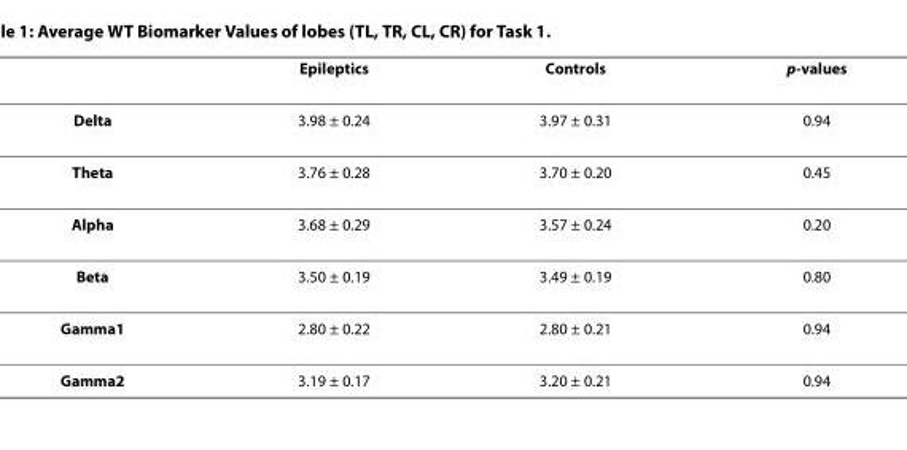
<table><thead><tr><td></td><td>Epileptics</td><td>Controls</td><td>p-values</td></tr></thead><tbody><tr><td>Delta</td><td>3.98 ± 0.24</td><td>3.97 ± 0.31</td><td>0.94</td></tr><tr><td>Theta</td><td>3.76 ± 0.28</td><td>3.70 ± 0.20</td><td>0.45</td></tr><tr><td>Alpha</td><td>3.68 ± 0.29</td><td>3.57 ± 0.24</td><td>0.20</td></tr><tr><td>Beta</td><td>3.50 ± 0.19</td><td>3.49 ± 0.19</td><td>0.80</td></tr><tr><td>Gamma1</td><td>2.80 ± 0.22</td><td>2.80 ± 0.21</td><td>0.94</td></tr><tr><td>Gamma2</td><td>3.19 ± 0.17</td><td>3.20 ± 0.21</td><td>0.94</td></tr></tbody></table>